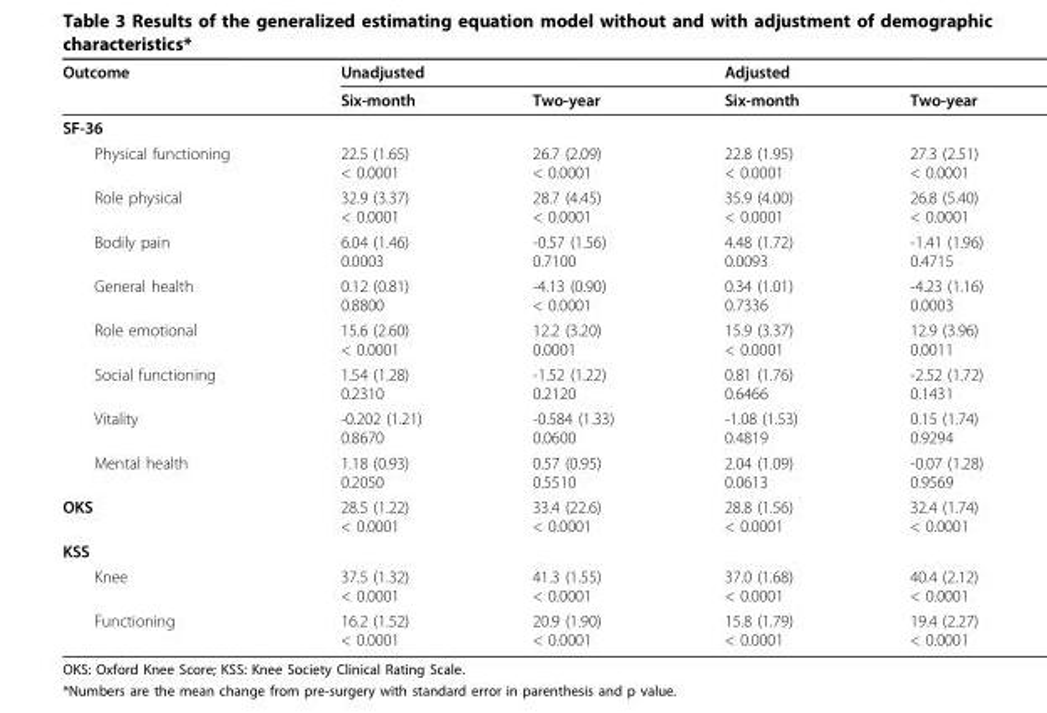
<table><thead><tr><td rowspan="2">Outcome</td><td colspan="2">Unadjusted</td><td colspan="2">Adjusted</td></tr><tr><td>Six-month</td><td>Two-year</td><td>Six-month</td><td>Two-year</td></tr></thead><tbody><tr><td colspan="5">SF-36</td></tr><tr><td>Physical functioning</td><td>22.5 (1.65) &lt; 0.0001</td><td>26.7 (2.09) &lt; 0.0001</td><td>22.8 (1.95) &lt; 0.0001</td><td>27.3 (2.51) &lt; 0.0001</td></tr><tr><td>Role physical</td><td>32.9 (3.37) &lt; 0.0001</td><td>28.7 (4.45) &lt; 0.0001</td><td>35.9 (4.00) &lt; 0.0001</td><td>26.8 (5.40) &lt; 0.0001</td></tr><tr><td>Bodily pain</td><td>6.04 (1.46) 0.0003</td><td>-0.57 (1.56) 0.7100</td><td>4.48 (1.72) 0.0093</td><td>-1.41 (1.96) 0.4715</td></tr><tr><td>General health</td><td>0.12 (0.81) 0.8800</td><td>-4.13 (0.90) &lt; 0.0001</td><td>0.34 (1.01) 0.7336</td><td>-4.23 (1.16) 0.0003</td></tr><tr><td>Role emotional</td><td>15.6 (2.60) &lt; 0.0001</td><td>12.2 (3.20) 0.0001</td><td>15.9 (3.37) &lt; 0.0001</td><td>12.9 (3.96) 0.0011</td></tr><tr><td>Social functioning</td><td>1.54 (1.28) 0.2310</td><td>-1.52 (1.22) 0.2120</td><td>0.81 (1.76) 0.6466</td><td>-2.52 (1.72) 0.1431</td></tr><tr><td>Vitality</td><td>-0.202 (1.21) 0.8670</td><td>-0.584 (1.33) 0.0600</td><td>-1.08 (1.53) 0.4819</td><td>0.15 (1.74) 0.9294</td></tr><tr><td>Mental health</td><td>1.18 (0.93) 0.2050</td><td>0.57 (0.95) 0.5510</td><td>2.04 (1.09) 0.0613</td><td>-0.07 (1.28) 0.9569</td></tr><tr><td>OKS</td><td>28.5 (1.22) &lt; 0.0001</td><td>33.4 (22.6) &lt; 0.0001</td><td>28.8 (1.56) &lt; 0.0001</td><td>32.4 (1.74) &lt; 0.0001</td></tr><tr><td colspan="5">KSS</td></tr><tr><td>Knee</td><td>37.5 (1.32) &lt; 0.0001</td><td>41.3 (1.55) &lt; 0.0001</td><td>37.0 (1.68) &lt; 0.0001</td><td>40.4 (2.12) &lt; 0.0001</td></tr><tr><td>Functioning</td><td>16.2 (1.52) &lt; 0.0001</td><td>20.9 (1.90) &lt; 0.0001</td><td>15.8 (1.79) &lt; 0.0001</td><td>19.4 (2.27) &lt; 0.0001</td></tr></tbody></table>